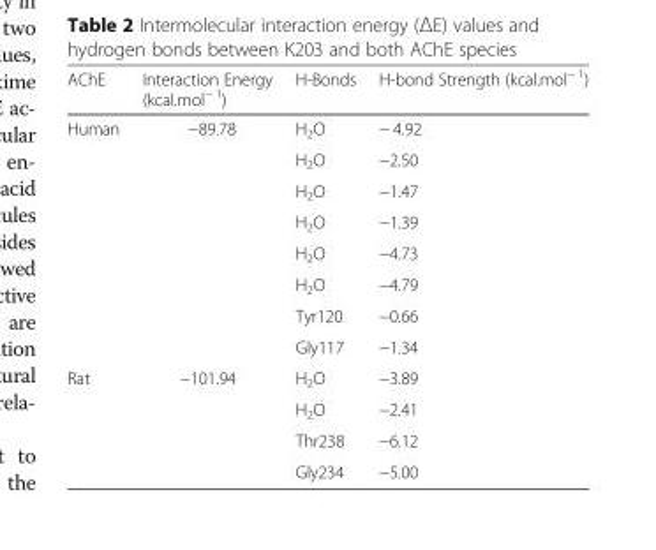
<table><thead><tr><td>AChE</td><td>Interaction Energy (kcal.mol<sup>− 1</sup>)</td><td>H-Bonds</td><td>H-bond Strength (kcal.mol<sup>− 1</sup>)</td></tr></thead><tbody><tr><td rowspan="8">Human</td><td rowspan="8">−89.78</td><td>H<sub>2</sub>O</td><td>− 4.92</td></tr><tr><td>H<sub>2</sub>O</td><td>−2.50</td></tr><tr><td>H<sub>2</sub>O</td><td>−1.47</td></tr><tr><td>H<sub>2</sub>O</td><td>−1.39</td></tr><tr><td>H<sub>2</sub>O</td><td>−4.73</td></tr><tr><td>H<sub>2</sub>O</td><td>−4.79</td></tr><tr><td>Tyr120</td><td>−0.66</td></tr><tr><td>Gly117</td><td>−1.34</td></tr><tr><td rowspan="4">Rat</td><td rowspan="4">−101.94</td><td>H<sub>2</sub>O</td><td>−3.89</td></tr><tr><td>H<sub>2</sub>O</td><td>−2.41</td></tr><tr><td>Thr238</td><td>−6.12</td></tr><tr><td>Gly234</td><td>−5.00</td></tr></tbody></table>